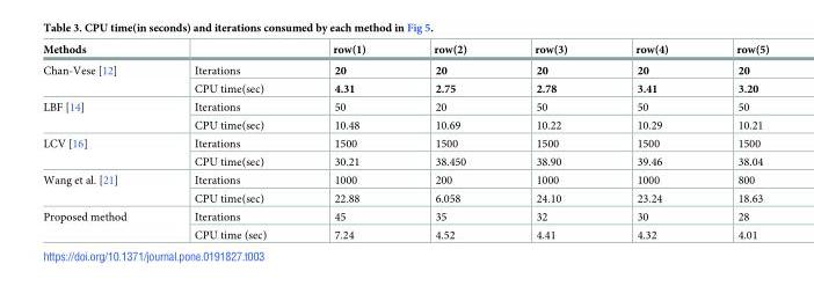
<table><thead><tr><td>Methods</td><td></td><td>row(1)</td><td>row(2)</td><td>row(3)</td><td>row(4)</td><td>row(5)</td></tr></thead><tbody><tr><td rowspan="2">Chan-Vese [12]</td><td>Iterations</td><td>20</td><td>20</td><td>20</td><td>20</td><td>20</td></tr><tr><td>CPU time(sec)</td><td>4.31</td><td>2.75</td><td>2.78</td><td>3.41</td><td>3.20</td></tr><tr><td rowspan="2">LBF [14]</td><td>Iterations</td><td>50</td><td>20</td><td>50</td><td>50</td><td>50</td></tr><tr><td>CPU time(sec)</td><td>10.48</td><td>10.69</td><td>10.22</td><td>10.29</td><td>10.21</td></tr><tr><td rowspan="2">LCV [16]</td><td>Iterations</td><td>1500</td><td>1500</td><td>1500</td><td>1500</td><td>1500</td></tr><tr><td>CPU time(sec)</td><td>30.21</td><td>38.450</td><td>38.90</td><td>39.46</td><td>38.04</td></tr><tr><td rowspan="2">Wang et al. [21]</td><td>Iterations</td><td>1000</td><td>200</td><td>1000</td><td>1000</td><td>800</td></tr><tr><td>CPU time(sec)</td><td>22.88</td><td>6.058</td><td>24.10</td><td>23.24</td><td>18.63</td></tr><tr><td rowspan="2">Proposed method</td><td>Iterations</td><td>45</td><td>35</td><td>32</td><td>30</td><td>28</td></tr><tr><td>CPU time (sec)</td><td>7.24</td><td>4.52</td><td>4.41</td><td>4.32</td><td>4.01</td></tr></tbody></table>